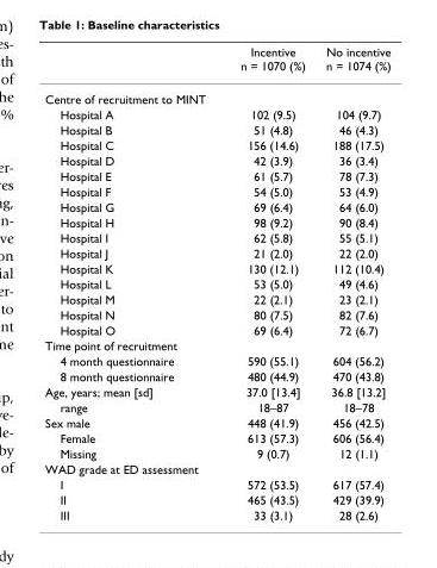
<table><thead><tr><td></td><td>Incentive n = 1070 (%)</td><td>No incentive n = 1074 (%)</td></tr></thead><tbody><tr><td colspan="3">Centre of recruitment to MINT</td></tr><tr><td>Hospital A</td><td>102 (9.5)</td><td>104 (9.7)</td></tr><tr><td>Hospital B</td><td>51 (4.8)</td><td>46 (4.3)</td></tr><tr><td>Hospital C</td><td>156 (14.6)</td><td>188 (17.5)</td></tr><tr><td>Hospital D</td><td>42 (3.9)</td><td>36 (3.4)</td></tr><tr><td>Hospital E</td><td>61 (5.7)</td><td>78 (7.3)</td></tr><tr><td>Hospital F</td><td>54 (5.0)</td><td>53 (4.9)</td></tr><tr><td>Hospital G</td><td>69 (6.4)</td><td>64 (6.0)</td></tr><tr><td>Hospital H</td><td>98 (9.2)</td><td>90 (8.4)</td></tr><tr><td>Hospital I</td><td>62 (5.8)</td><td>55 (5.1)</td></tr><tr><td>Hospital J</td><td>21 (2.0)</td><td>22 (2.0)</td></tr><tr><td>Hospital K</td><td>130 (12.1)</td><td>112 (10.4)</td></tr><tr><td>Hospital L</td><td>53 (5.0)</td><td>49 (4.6)</td></tr><tr><td>Hospital M</td><td>22 (2.1)</td><td>23 (2.1)</td></tr><tr><td>Hospital N</td><td>80 (7.5)</td><td>82 (7.6)</td></tr><tr><td>Hospital O</td><td>69 (6.4)</td><td>72 (6.7)</td></tr><tr><td colspan="3">Time point of recruitment</td></tr><tr><td>4 month questionnaire</td><td>590 (55.1)</td><td>604 (56.2)</td></tr><tr><td>8 month questionnaire</td><td>480 (44.9)</td><td>470 (43.8)</td></tr><tr><td>Age, years; mean [sd]</td><td>37.0 [13.4]</td><td>36.8 [13.2]</td></tr><tr><td>range</td><td>18–87</td><td>18–78</td></tr><tr><td>Sex male</td><td>448 (41.9)</td><td>456 (42.5)</td></tr><tr><td>Female</td><td>613 (57.3)</td><td>606 (56.4)</td></tr><tr><td>Missing</td><td>9 (0.7)</td><td>12 (1.1)</td></tr><tr><td colspan="3">WAD grade at ED assessment</td></tr><tr><td>I</td><td>572 (53.5)</td><td>617 (57.4)</td></tr><tr><td>II</td><td>465 (43.5)</td><td>429 (39.9)</td></tr><tr><td>III</td><td>33 (3.1)</td><td>28 (2.6)</td></tr></tbody></table>